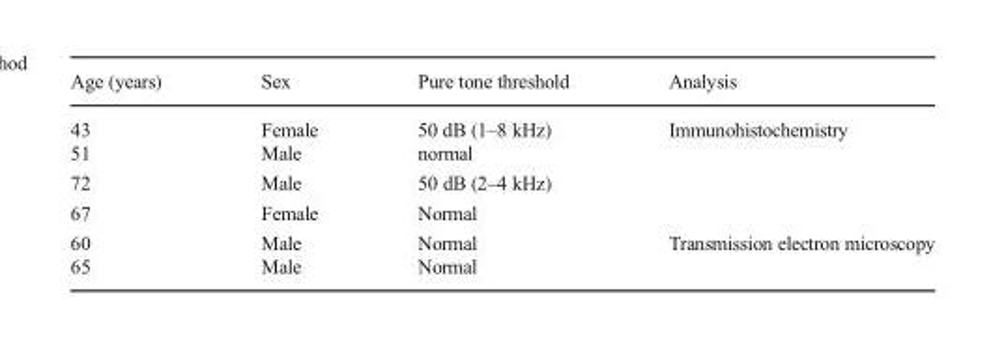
<table><thead><tr><td>Age (years)</td><td>Sex</td><td>Pure tone threshold</td><td>Analysis</td></tr></thead><tbody><tr><td>43</td><td>Female</td><td>50 dB (1–8 kHz)</td><td rowspan="4">Immunohistochemistry</td></tr><tr><td>51</td><td>Male</td><td>normal</td></tr><tr><td>72</td><td>Male</td><td>50 dB (2–4 kHz)</td></tr><tr><td>67</td><td>Female</td><td>Normal</td></tr><tr><td>60</td><td>Male</td><td>Normal</td><td rowspan="2">Transmission electron microscopy</td></tr><tr><td>65</td><td>Male</td><td>Normal</td></tr></tbody></table>